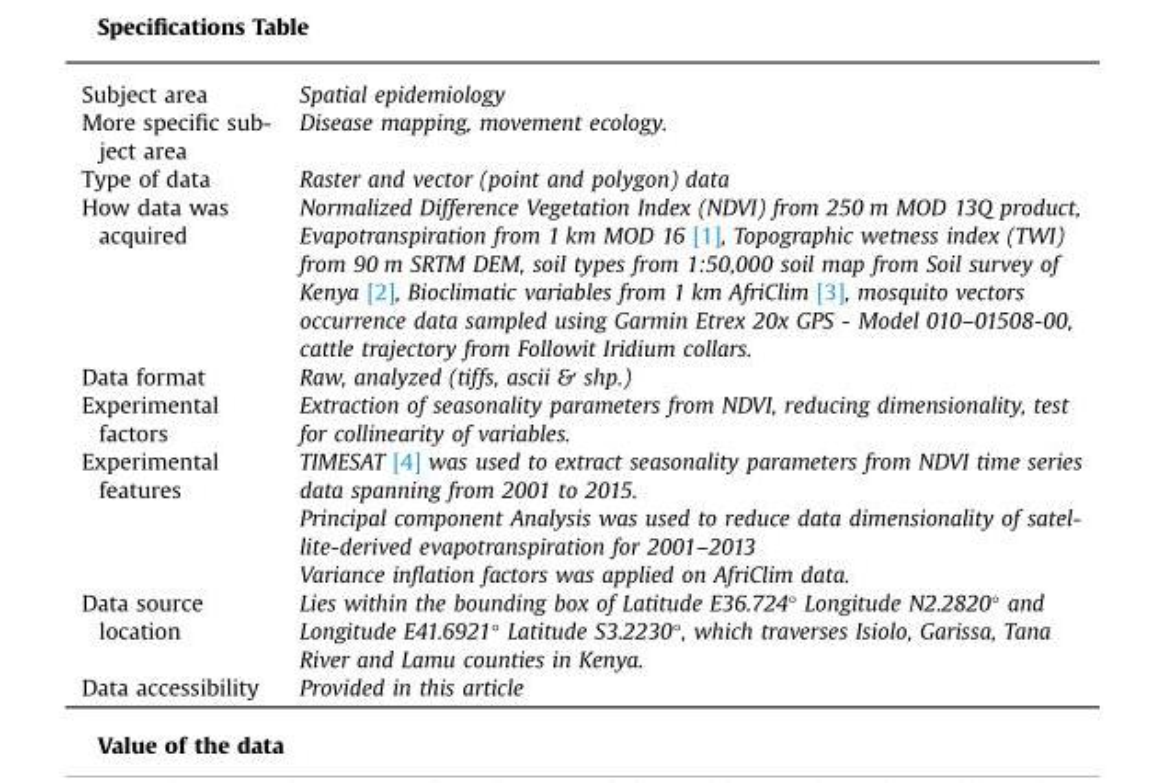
<table><tbody><tr><td>Subject area</td><td>Spatial epidemiology</td></tr><tr><td>More specific sub- ject area</td><td>Disease mapping, movement ecology.</td></tr><tr><td>Type of data</td><td>Raster and vector (point and polygon) data</td></tr><tr><td>How data was acquired</td><td>Normalized Difference Vegetation Index (NDVI) from 250 m MOD 13Q product, Evapotranspiration from 1 km MOD 16 [1], Topographic wetness index (TWI) from 90 m SRTM DEM, soil types from 1:50,000 soil map from Soil survey of Kenya [2], Bioclimatic variables from 1 km AfriClim [3], mosquito vectors occurrence data sampled using Garmin Etrex 20x GPS - Model 010–01508-00, cattle trajectory from Followit Iridium collars.</td></tr><tr><td>Data format</td><td>Raw, analyzed (tiffs, ascii &amp; shp.)</td></tr><tr><td>Experimental factors</td><td>Extraction of seasonality parameters from NDVI, reducing dimensionality, test for collinearity of variables.</td></tr><tr><td rowspan="3">Experimental features</td><td>TIMESAT [4] was used to extract seasonality parameters from NDVI time series data spanning from 2001 to 2015.</td></tr><tr><td>Principal component Analysis was used to reduce data dimensionality of satel- lite-derived evapotranspiration for 2001–2013</td></tr><tr><td>Variance inflation factors was applied on AfriClim data.</td></tr><tr><td>Data source location</td><td>Lies within the bounding box of Latitude E36.724° Longitude N2.2820° and Longitude E41.6921° Latitude S3.2230°, which traverses Isiolo, Garissa, Tana River and Lamu counties in Kenya.</td></tr><tr><td>Data accessibility</td><td>Provided in this article</td></tr></tbody></table>